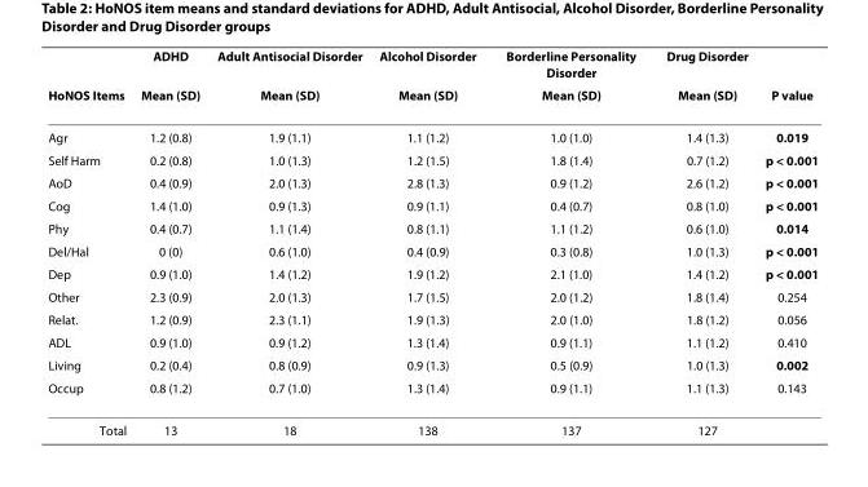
<table><thead><tr><td rowspan="2">HoNOS Items</td><td rowspan="2">ADHD Mean (SD)</td><td rowspan="2">Adult Antisocial Disorder Mean (SD)</td><td rowspan="2">Alcohol Disorder Mean (SD)</td><td rowspan="2">Borderline Personality Disorder Mean (SD)</td><td rowspan="2">Drug Disorder Mean (SD)</td><td rowspan="2">P value</td></tr><tr></tr></thead><tbody><tr><td>Agr</td><td>1.2 (0.8)</td><td>1.9 (1.1)</td><td>1.1 (1.2)</td><td>1.0 (1.0)</td><td>1.4 (1.3)</td><td>0.019</td></tr><tr><td>Self Harm</td><td>0.2 (0.8)</td><td>1.0 (1.3)</td><td>1.2 (1.5)</td><td>1.8 (1.4)</td><td>0.7 (1.2)</td><td>p &lt; 0.001</td></tr><tr><td>AoD</td><td>0.4 (0.9)</td><td>2.0 (1.3)</td><td>2.8 (1.3)</td><td>0.9 (1.2)</td><td>2.6 (1.2)</td><td>p &lt; 0.001</td></tr><tr><td>Cog</td><td>1.4 (1.0)</td><td>0.9 (1.3)</td><td>0.9 (1.1)</td><td>0.4 (0.7)</td><td>0.8 (1.0)</td><td>p &lt; 0.001</td></tr><tr><td>Phy</td><td>0.4 (0.7)</td><td>1.1 (1.4)</td><td>0.8 (1.1)</td><td>1.1 (1.2)</td><td>0.6 (1.0)</td><td>0.014</td></tr><tr><td>Del/Hal</td><td>0 (0)</td><td>0.6 (1.0)</td><td>0.4 (0.9)</td><td>0.3 (0.8)</td><td>1.0 (1.3)</td><td>p &lt; 0.001</td></tr><tr><td>Dep</td><td>0.9 (1.0)</td><td>1.4 (1.2)</td><td>1.9 (1.2)</td><td>2.1 (1.0)</td><td>1.4 (1.2)</td><td>p &lt; 0.001</td></tr><tr><td>Other</td><td>2.3 (0.9)</td><td>2.0 (1.3)</td><td>1.7 (1.5)</td><td>2.0 (1.2)</td><td>1.8 (1.4)</td><td>0.254</td></tr><tr><td>Relat.</td><td>1.2 (0.9)</td><td>2.3 (1.1)</td><td>1.9 (1.3)</td><td>2.0 (1.0)</td><td>1.8 (1.2)</td><td>0.056</td></tr><tr><td>ADL</td><td>0.9 (1.0)</td><td>0.9 (1.2)</td><td>1.3 (1.4)</td><td>0.9 (1.1)</td><td>1.1 (1.2)</td><td>0.410</td></tr><tr><td>Living</td><td>0.2 (0.4)</td><td>0.8 (0.9)</td><td>0.9 (1.3)</td><td>0.5 (0.9)</td><td>1.0 (1.3)</td><td>0.002</td></tr><tr><td>Occup</td><td>0.8 (1.2)</td><td>0.7 (1.0)</td><td>1.3 (1.4)</td><td>0.9 (1.1)</td><td>1.1 (1.3)</td><td>0.143</td></tr><tr><td>Total</td><td>13</td><td>18</td><td>138</td><td>137</td><td>127</td><td></td></tr></tbody></table>